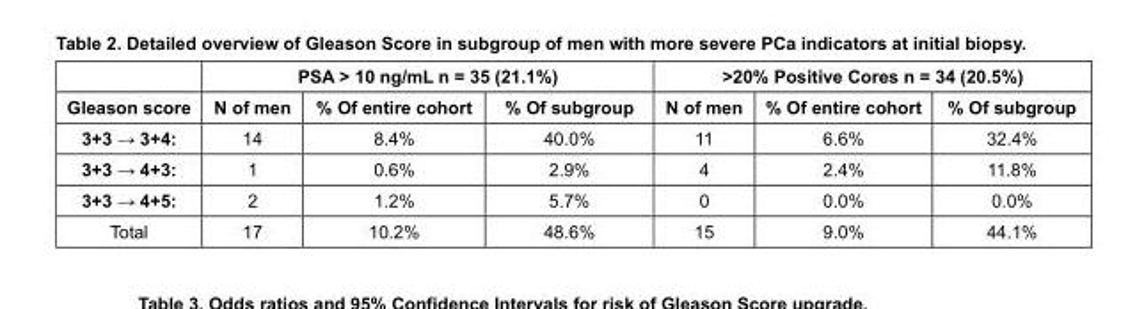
<table><thead><tr><td rowspan="2">Gleason score</td><td colspan="3">PSA &gt; 10 ng/mL n = 35 (21.1%)</td><td colspan="3">&gt;20% Positive Cores n = 34 (20.5%)</td></tr><tr><td>N of men</td><td>% Of entire cohort</td><td>% Of subgroup</td><td>N of men</td><td>% Of entire cohort</td><td>% Of subgroup</td></tr></thead><tbody><tr><td>3+3 → 3+4:</td><td>14</td><td>8.4%</td><td>40.0%</td><td>11</td><td>6.6%</td><td>32.4%</td></tr><tr><td>3+3 → 4+3:</td><td>1</td><td>0.6%</td><td>2.9%</td><td>4</td><td>2.4%</td><td>11.8%</td></tr><tr><td>3+3 → 4+5:</td><td>2</td><td>1.2%</td><td>5.7%</td><td>0</td><td>0.0%</td><td>0.0%</td></tr><tr><td>Total</td><td>17</td><td>10.2%</td><td>48.6%</td><td>15</td><td>9.0%</td><td>44.1%</td></tr></tbody></table>